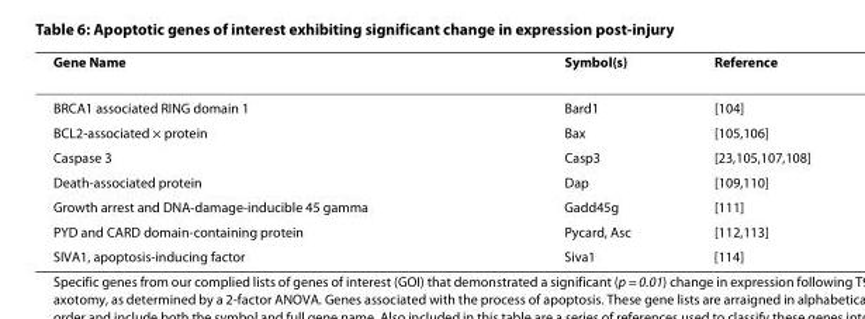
<table><thead><tr><td>Gene Name</td><td>Symbol(s)</td><td>Reference</td></tr></thead><tbody><tr><td>BRCA1 associated RING domain 1</td><td>Bard1</td><td>[104]</td></tr><tr><td>BCL2-associated × protein</td><td>Bax</td><td>[105,106]</td></tr><tr><td>Caspase 3</td><td>Casp3</td><td>[23,105,107,108]</td></tr><tr><td>Death-associated protein</td><td>Dap</td><td>[109,110]</td></tr><tr><td>Growth arrest and DNA-damage-inducible 45 gamma</td><td>Gadd45g</td><td>[111]</td></tr><tr><td>PYD and CARD domain-containing protein</td><td>Pycard, Asc</td><td>[112,113]</td></tr><tr><td>SIVA1, apoptosis-inducing factor</td><td>Siva1</td><td>[114]</td></tr></tbody></table>